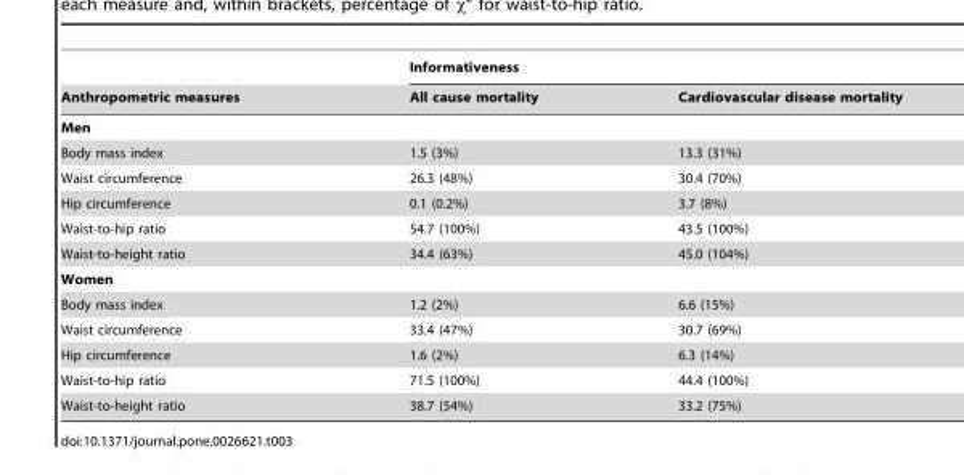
<table><thead><tr><td rowspan="2">Anthropometric measures</td><td colspan="2">Informativeness</td></tr><tr><td>All cause mortality</td><td>Cardiovascular disease mortality</td></tr></thead><tbody><tr><td colspan="3">Men</td></tr><tr><td>Body mass index</td><td>1.5 (3%)</td><td>13.3 (31%)</td></tr><tr><td>Waist circumference</td><td>26.3 (48%)</td><td>30.4 (70%)</td></tr><tr><td>Hip circumference</td><td>0.1 (0.2%)</td><td>3.7 (8%)</td></tr><tr><td>Waist-to-hip ratio</td><td>54.7 (100%)</td><td>43.5 (100%)</td></tr><tr><td>Waist-to-height ratio</td><td>34.4 (63%)</td><td>45.0 (104%)</td></tr><tr><td colspan="3">Women</td></tr><tr><td>Body mass index</td><td>1.2 (2%)</td><td>6.6 (15%)</td></tr><tr><td>Waist circumference</td><td>33.4 (47%)</td><td>30.7 (69%)</td></tr><tr><td>Hip circumference</td><td>1.6 (2%)</td><td>6.3 (14%)</td></tr><tr><td>Waist-to-hip ratio</td><td>71.5 (100%)</td><td>44.4 (100%)</td></tr><tr><td>Waist-to-height ratio</td><td>38.7 (54%)</td><td>33.2 (75%)</td></tr></tbody></table>